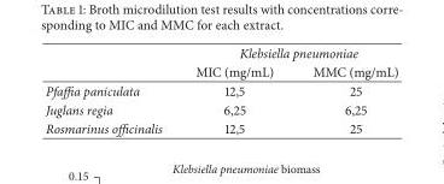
<table><thead><tr><td rowspan="2"></td><td colspan="2">Klebsiella pneumoniae</td></tr><tr><td>MIC (mg/mL)</td><td>MMC (mg/mL)</td></tr></thead><tbody><tr><td>Pfaffia paniculata</td><td>12,5</td><td>25</td></tr><tr><td>Juglans regia</td><td>6,25</td><td>6,25</td></tr><tr><td>Rosmarinus officinalis</td><td>12,5</td><td>25</td></tr></tbody></table>